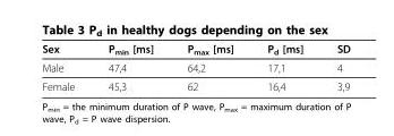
<table><thead><tr><td>Sex</td><td>P<sub>min</sub> [ms]</td><td>P<sub>max</sub> [ms]</td><td>P<sub>d</sub> [ms]</td><td>SD</td></tr></thead><tbody><tr><td>Male</td><td>47,4</td><td>64,2</td><td>17,1</td><td>4</td></tr><tr><td>Female</td><td>45,3</td><td>62</td><td>16,4</td><td>3,9</td></tr></tbody></table>